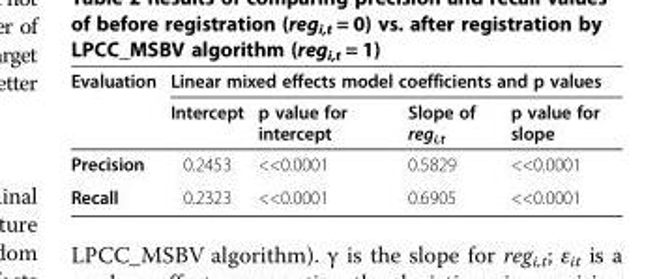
<table><thead><tr><td rowspan="2">Evaluation</td><td colspan="4">Linear mixed effects model coefficients and p values</td></tr><tr><td>Intercept</td><td>p value for intercept</td><td>Slope of reg<sub>i,t</sub></td><td>p value for slope</td></tr></thead><tbody><tr><td>Precision</td><td>0.2453</td><td>&lt;&lt;0.0001</td><td>0.5829</td><td>&lt;&lt;0.0001</td></tr><tr><td>Recall</td><td>0.2323</td><td>&lt;&lt;0.0001</td><td>0.6905</td><td>&lt;&lt;0.0001</td></tr></tbody></table>